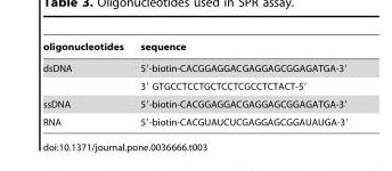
<table><thead><tr><td>oligonucleotides</td><td>sequence</td></tr></thead><tbody><tr><td rowspan="2">dsDNA</td><td>5′-biotin-CACGGAGGACGAGGAGCGGAGATGA-3′</td></tr><tr><td>3′ GTGCCTCCTGCTCCTCGCCTCTACT-5′</td></tr><tr><td>ssDNA</td><td>5′-biotin-CACGGAGGACGAGGAGCGGAGATGA-3′</td></tr><tr><td>RNA</td><td>5′-biotin-CACGUAUCUCGAGGAGCGGAUAUGA-3′</td></tr></tbody></table>